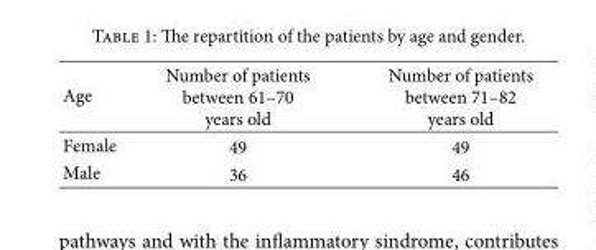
<table><thead><tr><td>Age</td><td>Number of patients between 61–70 years old</td><td>Number of patients between 71–82 years old</td></tr></thead><tbody><tr><td>Female</td><td>49</td><td>49</td></tr><tr><td>Male</td><td>36</td><td>46</td></tr></tbody></table>